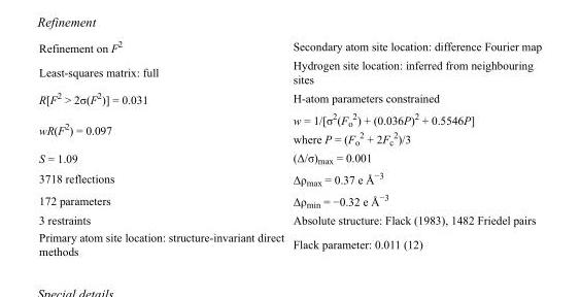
<table><tbody><tr><td>Refinement on F<sup>2</sup></td><td>Secondary atom site location: difference Fourier map</td></tr><tr><td>Least-squares matrix: full</td><td>Hydrogen site location: inferred from neighbouring sites</td></tr><tr><td>R[F<sup>2</sup> &gt; 2σ(F<sup>2</sup>)] = 0.031</td><td>H-atom parameters constrained</td></tr><tr><td>wR(F<sup>2</sup>) = 0.097</td><td>w = 1/[σ<sup>2</sup>(F<sub>o</sub> <sup>2</sup>) + (0.036P)<sup>2</sup> + 0.5546P] where P = (F<sub>o</sub> <sup>2</sup> + 2F<sub>c</sub> <sup>2</sup>)/3</td></tr><tr><td>S = 1.09</td><td>(Δ/σ)<sub>max</sub> = 0.001</td></tr><tr><td>3718 reflections</td><td>Δρ<sub>max</sub> = 0.37 e Å<sup>−3</sup></td></tr><tr><td>172 parameters</td><td>Δρ<sub>min</sub> = −0.32 e Å<sup>−3</sup></td></tr><tr><td>3 restraints</td><td>Absolute structure: Flack (1983), 1482 Friedel pairs</td></tr><tr><td>Primary atom site location: structure-invariant direct methods</td><td>Flack parameter: 0.011 (12)</td></tr></tbody></table>